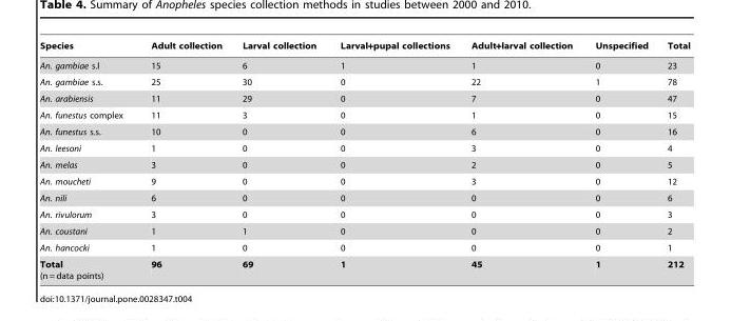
<table><thead><tr><td>Species</td><td>Adult collection</td><td>Larval collection</td><td>Larval+pupal collections</td><td>Adult+larval collection</td><td>Unspecified</td><td>Total</td></tr></thead><tbody><tr><td>An. gambiae s.l</td><td>15</td><td>6</td><td>1</td><td>1</td><td>0</td><td>23</td></tr><tr><td>An. gambiae s.s.</td><td>25</td><td>30</td><td>0</td><td>22</td><td>1</td><td>78</td></tr><tr><td>An. arabiensis</td><td>11</td><td>29</td><td>0</td><td>7</td><td>0</td><td>47</td></tr><tr><td>An. funestus complex</td><td>11</td><td>3</td><td>0</td><td>1</td><td>0</td><td>15</td></tr><tr><td>An. funestus s.s.</td><td>10</td><td>0</td><td>0</td><td>6</td><td>0</td><td>16</td></tr><tr><td>An. leesoni</td><td>1</td><td>0</td><td>0</td><td>3</td><td>0</td><td>4</td></tr><tr><td>An. melas</td><td>3</td><td>0</td><td>0</td><td>2</td><td>0</td><td>5</td></tr><tr><td>An. moucheti</td><td>9</td><td>0</td><td>0</td><td>3</td><td>0</td><td>12</td></tr><tr><td>An. nili</td><td>6</td><td>0</td><td>0</td><td>0</td><td>0</td><td>6</td></tr><tr><td>An. rivulorum</td><td>3</td><td>0</td><td>0</td><td>0</td><td>0</td><td>3</td></tr><tr><td>An. coustani</td><td>1</td><td>1</td><td>0</td><td>0</td><td>0</td><td>2</td></tr><tr><td>An. hancocki</td><td>1</td><td>0</td><td>0</td><td>0</td><td>0</td><td>1</td></tr><tr><td>Total (n = data points)</td><td>96</td><td>69</td><td>1</td><td>45</td><td>1</td><td>212</td></tr></tbody></table>